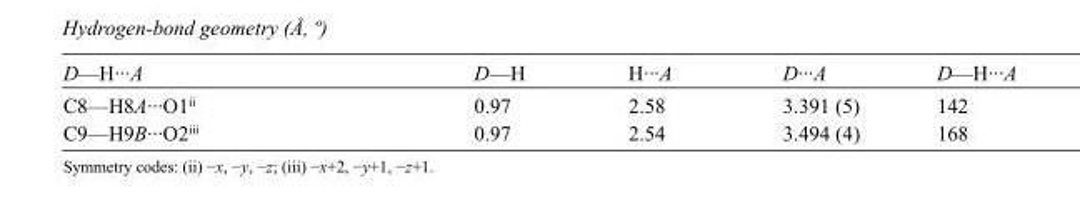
<table><tbody><tr><td>D—H···A</td><td>D—H</td><td>H···A</td><td>D···A</td><td>D—H···A</td></tr><tr><td>C8—H8A···O1<sup>ii</sup></td><td>0.97</td><td>2.58</td><td>3.391 (5)</td><td>142</td></tr><tr><td>C9—H9B···O2<sup>iii</sup></td><td>0.97</td><td>2.54</td><td>3.494 (4)</td><td>168</td></tr></tbody></table>